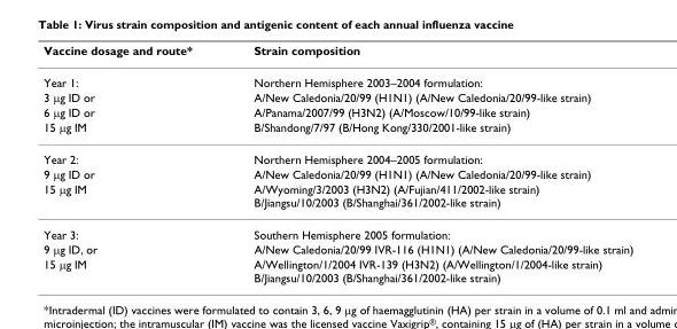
<table><thead><tr><td>Vaccine dosage and route*</td><td>Strain composition</td></tr></thead><tbody><tr><td>Year 1:</td><td>Northern Hemisphere 2003–2004 formulation:</td></tr><tr><td>3 μg ID or</td><td>A/New Caledonia/20/99 (H1N1) (A/New Caledonia/20/99-like strain)</td></tr><tr><td>6 μg ID or</td><td>A/Panama/2007/99 (H3N2) (A/Moscow/10/99-like strain)</td></tr><tr><td>15 μg IM</td><td>B/Shandong/7/97 (B/Hong Kong/330/2001-like strain)</td></tr><tr><td>Year 2:</td><td>Northern Hemisphere 2004–2005 formulation:</td></tr><tr><td>9 μg ID or</td><td>A/New Caledonia/20/99 (H1N1) (A/New Caledonia/20/99-like strain)</td></tr><tr><td>15 μg IM</td><td>A/Wyoming/3/2003 (H3N2) (A/Fujian/411/2002-like strain) B/Jiangsu/10/2003 (B/Shanghai/361/2002-like strain)</td></tr><tr><td>Year 3:</td><td>Southern Hemisphere 2005 formulation:</td></tr><tr><td>9 μg ID, or</td><td>A/New Caledonia/20/99 IVR-116 (H1N1) (A/New Caledonia/20/99-like strain)</td></tr><tr><td>15 μg IM</td><td>A/Wellington/1/2004 IVR-139 (H3N2) (A/Wellington/1/2004-like strain) B/Jiangsu/10/2003 (B/Shanghai/361/2002-like strain)</td></tr></tbody></table>